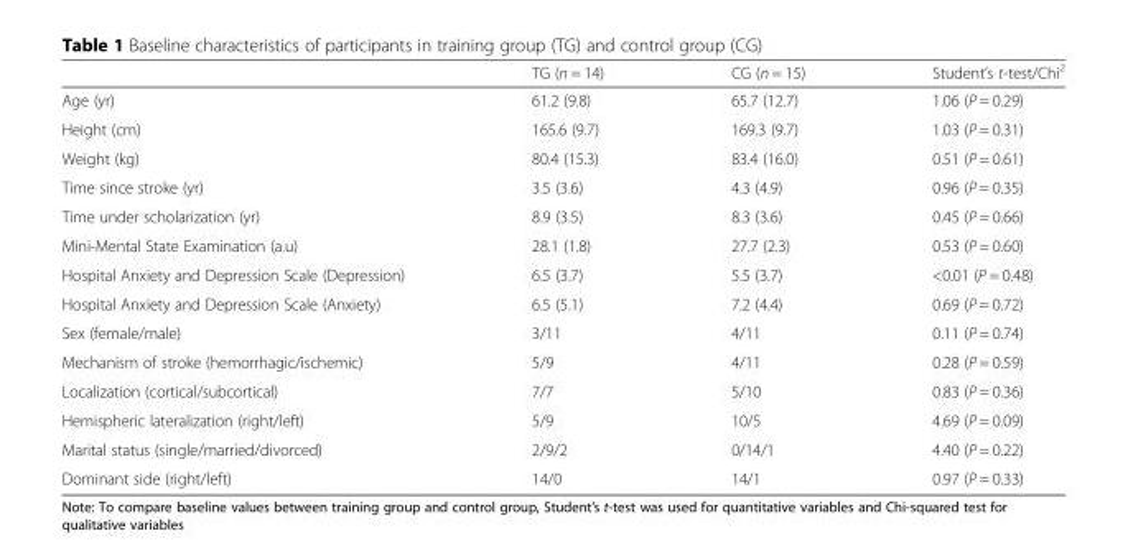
<table><thead><tr><td></td><td>TG (n = 14)</td><td>CG (n = 15)</td><td>Student’s t-test/Chi<sup>2</sup></td></tr></thead><tbody><tr><td>Age (yr)</td><td>61.2 (9.8)</td><td>65.7 (12.7)</td><td>1.06 (P = 0.29)</td></tr><tr><td>Height (cm)</td><td>165.6 (9.7)</td><td>169.3 (9.7)</td><td>1.03 (P = 0.31)</td></tr><tr><td>Weight (kg)</td><td>80.4 (15.3)</td><td>83.4 (16.0)</td><td>0.51 (P = 0.61)</td></tr><tr><td>Time since stroke (yr)</td><td>3.5 (3.6)</td><td>4.3 (4.9)</td><td>0.96 (P = 0.35)</td></tr><tr><td>Time under scholarization (yr)</td><td>8.9 (3.5)</td><td>8.3 (3.6)</td><td>0.45 (P = 0.66)</td></tr><tr><td>Mini-Mental State Examination (a.u)</td><td>28.1 (1.8)</td><td>27.7 (2.3)</td><td>0.53 (P = 0.60)</td></tr><tr><td>Hospital Anxiety and Depression Scale (Depression)</td><td>6.5 (3.7)</td><td>5.5 (3.7)</td><td>&lt;0.01 (P = 0.48)</td></tr><tr><td>Hospital Anxiety and Depression Scale (Anxiety)</td><td>6.5 (5.1)</td><td>7.2 (4.4)</td><td>0.69 (P = 0.72)</td></tr><tr><td>Sex (female/male)</td><td>3/11</td><td>4/11</td><td>0.11 (P = 0.74)</td></tr><tr><td>Mechanism of stroke (hemorrhagic/ischemic)</td><td>5/9</td><td>4/11</td><td>0.28 (P = 0.59)</td></tr><tr><td>Localization (cortical/subcortical)</td><td>7/7</td><td>5/10</td><td>0.83 (P = 0.36)</td></tr><tr><td>Hemispheric lateralization (right/left)</td><td>5/9</td><td>10/5</td><td>4.69 (P = 0.09)</td></tr><tr><td>Marital status (single/married/divorced)</td><td>2/9/2</td><td>0/14/1</td><td>4.40 (P = 0.22)</td></tr><tr><td>Dominant side (right/left)</td><td>14/0</td><td>14/1</td><td>0.97 (P = 0.33)</td></tr></tbody></table>